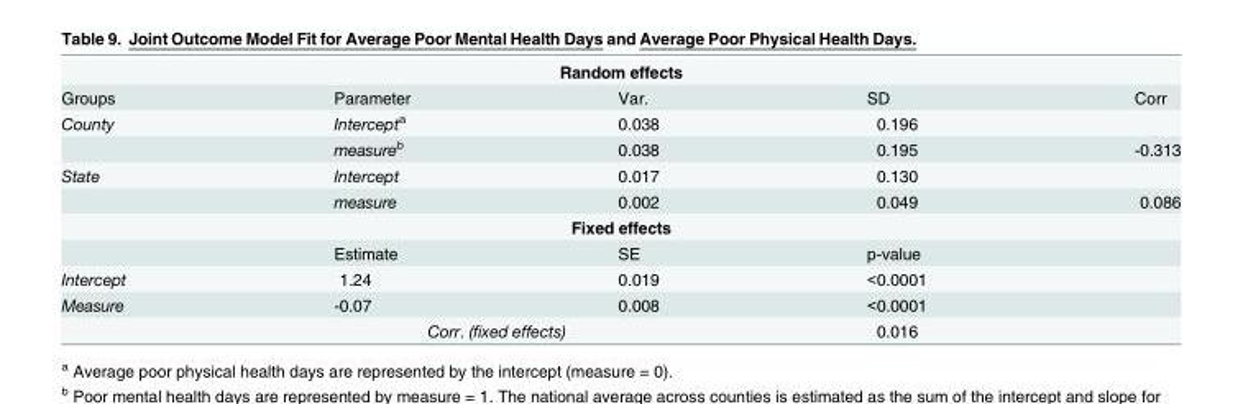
<table><tbody><tr><td colspan="5">Random effects</td></tr><tr><td>Groups</td><td>Parameter</td><td>Var.</td><td>SD</td><td>Corr</td></tr><tr><td rowspan="2">County</td><td>Intercept<sup>a</sup></td><td>0.038</td><td>0.196</td><td></td></tr><tr><td>measure<sup>b</sup></td><td>0.038</td><td>0.195</td><td>-0.313</td></tr><tr><td rowspan="2">State</td><td>Intercept</td><td>0.017</td><td>0.130</td><td></td></tr><tr><td>measure</td><td>0.002</td><td>0.049</td><td>0.086</td></tr><tr><td colspan="5">Fixed effects</td></tr><tr><td></td><td>Estimate</td><td>SE</td><td>p-value</td><td></td></tr><tr><td>Intercept</td><td>1.24</td><td>0.019</td><td>&lt;0.0001</td><td></td></tr><tr><td rowspan="2">Measure</td><td>-0.07</td><td>0.008</td><td>&lt;0.0001</td><td></td></tr><tr><td colspan="2">Corr. (fixed effects)</td><td>0.016</td><td></td></tr></tbody></table>